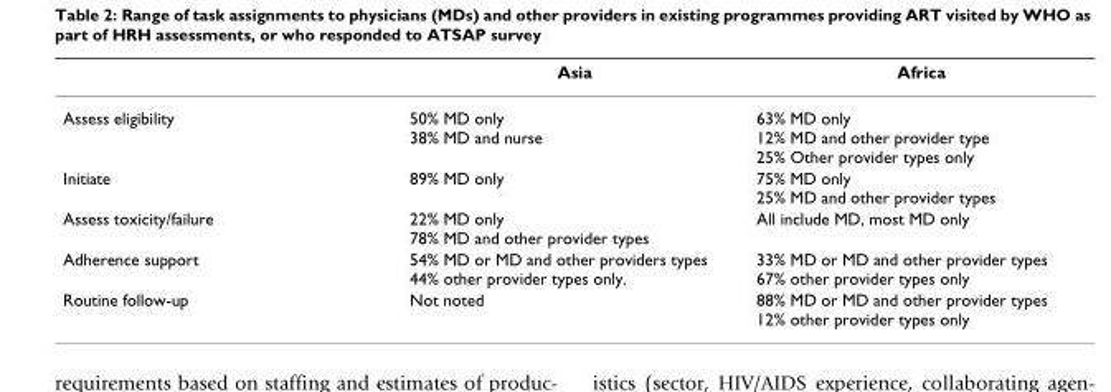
<table><thead><tr><td></td><td>Asia</td><td>Africa</td></tr></thead><tbody><tr><td>Assess eligibility</td><td>50% MD only 38% MD and nurse</td><td>63% MD only 12% MD and other provider type 25% Other provider types only</td></tr><tr><td>Initiate</td><td>89% MD only</td><td>75% MD only 25% MD and other provider types</td></tr><tr><td>Assess toxicity/failure</td><td>22% MD only 78% MD and other provider types</td><td>All include MD, most MD only</td></tr><tr><td>Adherence support</td><td>54% MD or MD and other providers types 44% other provider types only.</td><td>33% MD or MD and other provider types 67% other provider types only</td></tr><tr><td>Routine follow-up</td><td>Not noted</td><td>88% MD or MD and other provider types 12% other provider types only</td></tr></tbody></table>